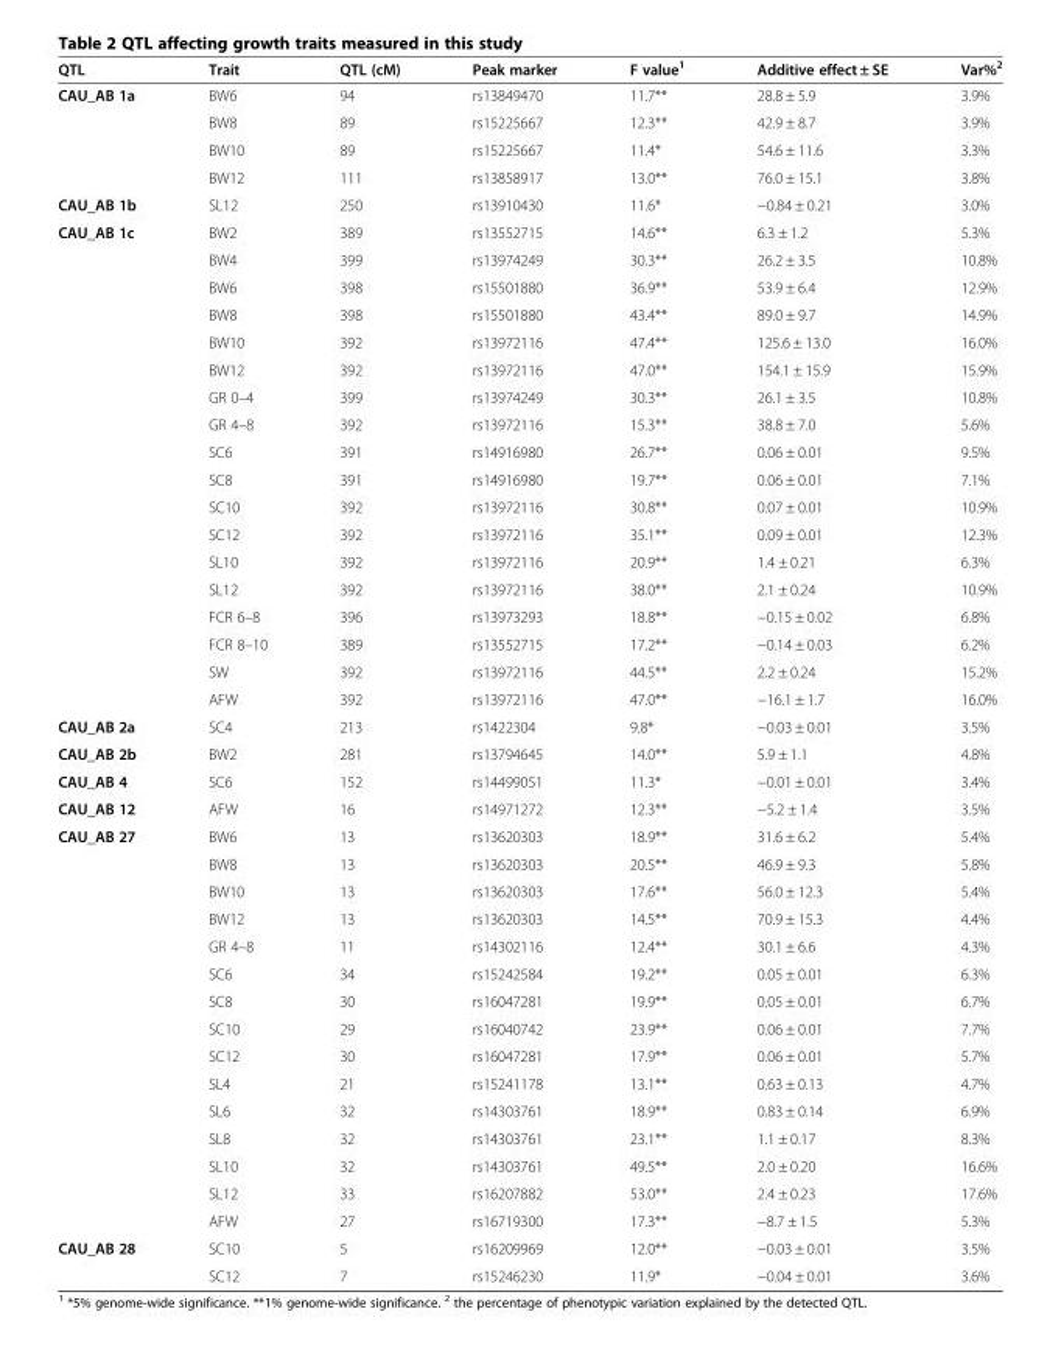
<table><thead><tr><td>QTL</td><td>Trait</td><td>QTL (cM)</td><td>Peak marker</td><td>F value<sup>1</sup></td><td>Additive effect ± SE</td><td>Var%<sup>2</sup></td></tr></thead><tbody><tr><td rowspan="4">CAU_AB 1a</td><td>BW6</td><td>94</td><td>rs13849470</td><td>11.7**</td><td>28.8 ± 5.9</td><td>3.9%</td></tr><tr><td>BW8</td><td>89</td><td>rs15225667</td><td>12.3**</td><td>42.9 ± 8.7</td><td>3.9%</td></tr><tr><td>BW10</td><td>89</td><td>rs15225667</td><td>11.4*</td><td>54.6 ± 11.6</td><td>3.3%</td></tr><tr><td>BW12</td><td>111</td><td>rs13858917</td><td>13.0**</td><td>76.0 ± 15.1</td><td>3.8%</td></tr><tr><td>CAU_AB 1b</td><td>SL12</td><td>250</td><td>rs13910430</td><td>11.6*</td><td>−0.84 ± 0.21</td><td>3.0%</td></tr><tr><td rowspan="18">CAU_AB 1c</td><td>BW2</td><td>389</td><td>rs13552715</td><td>14.6**</td><td>6.3 ± 1.2</td><td>5.3%</td></tr><tr><td>BW4</td><td>399</td><td>rs13974249</td><td>30.3**</td><td>26.2 ± 3.5</td><td>10.8%</td></tr><tr><td>BW6</td><td>398</td><td>rs15501880</td><td>36.9**</td><td>53.9 ± 6.4</td><td>12.9%</td></tr><tr><td>BW8</td><td>398</td><td>rs15501880</td><td>43.4**</td><td>89.0 ± 9.7</td><td>14.9%</td></tr><tr><td>BW10</td><td>392</td><td>rs13972116</td><td>47.4**</td><td>125.6 ± 13.0</td><td>16.0%</td></tr><tr><td>BW12</td><td>392</td><td>rs13972116</td><td>47.0**</td><td>154.1 ± 15.9</td><td>15.9%</td></tr><tr><td>GR 0–4</td><td>399</td><td>rs13974249</td><td>30.3**</td><td>26.1 ± 3.5</td><td>10.8%</td></tr><tr><td>GR 4–8</td><td>392</td><td>rs13972116</td><td>15.3**</td><td>38.8 ± 7.0</td><td>5.6%</td></tr><tr><td>SC6</td><td>391</td><td>rs14916980</td><td>26.7**</td><td>0.06 ± 0.01</td><td>9.5%</td></tr><tr><td>SC8</td><td>391</td><td>rs14916980</td><td>19.7**</td><td>0.06 ± 0.01</td><td>7.1%</td></tr><tr><td>SC10</td><td>392</td><td>rs13972116</td><td>30.8**</td><td>0.07 ± 0.01</td><td>10.9%</td></tr><tr><td>SC12</td><td>392</td><td>rs13972116</td><td>35.1**</td><td>0.09 ± 0.01</td><td>12.3%</td></tr><tr><td>SL10</td><td>392</td><td>rs13972116</td><td>20.9**</td><td>1.4 ± 0.21</td><td>6.3%</td></tr><tr><td>SL12</td><td>392</td><td>rs13972116</td><td>38.0**</td><td>2.1 ± 0.24</td><td>10.9%</td></tr><tr><td>FCR 6–8</td><td>396</td><td>rs13973293</td><td>18.8**</td><td>−0.15 ± 0.02</td><td>6.8%</td></tr><tr><td>FCR 8–10</td><td>389</td><td>rs13552715</td><td>17.2**</td><td>−0.14 ± 0.03</td><td>6.2%</td></tr><tr><td>SW</td><td>392</td><td>rs13972116</td><td>44.5**</td><td>2.2 ± 0.24</td><td>15.2%</td></tr><tr><td>AFW</td><td>392</td><td>rs13972116</td><td>47.0**</td><td>−16.1 ± 1.7</td><td>16.0%</td></tr><tr><td>CAU_AB 2a</td><td>SC4</td><td>213</td><td>rs1422304</td><td>9.8*</td><td>−0.03 ± 0.01</td><td>3.5%</td></tr><tr><td>CAU_AB 2b</td><td>BW2</td><td>281</td><td>rs13794645</td><td>14.0**</td><td>5.9 ± 1.1</td><td>4.8%</td></tr><tr><td>CAU_AB 4</td><td>SC6</td><td>152</td><td>rs14499051</td><td>11.3*</td><td>−0.01 ± 0.01</td><td>3.4%</td></tr><tr><td>CAU_AB 12</td><td>AFW</td><td>16</td><td>rs14971272</td><td>12.3**</td><td>−5.2 ± 1.4</td><td>3.5%</td></tr><tr><td rowspan="15">CAU_AB 27</td><td>BW6</td><td>13</td><td>rs13620303</td><td>18.9**</td><td>31.6 ± 6.2</td><td>5.4%</td></tr><tr><td>BW8</td><td>13</td><td>rs13620303</td><td>20.5**</td><td>46.9 ± 9.3</td><td>5.8%</td></tr><tr><td>BW10</td><td>13</td><td>rs13620303</td><td>17.6**</td><td>56.0 ± 12.3</td><td>5.4%</td></tr><tr><td>BW12</td><td>13</td><td>rs13620303</td><td>14.5**</td><td>70.9 ± 15.3</td><td>4.4%</td></tr><tr><td>GR 4–8</td><td>11</td><td>rs14302116</td><td>12.4**</td><td>30.1 ± 6.6</td><td>4.3%</td></tr><tr><td>SC6</td><td>34</td><td>rs15242584</td><td>19.2**</td><td>0.05 ± 0.01</td><td>6.3%</td></tr><tr><td>SC8</td><td>30</td><td>rs16047281</td><td>19.9**</td><td>0.05 ± 0.01</td><td>6.7%</td></tr><tr><td>SC10</td><td>29</td><td>rs16040742</td><td>23.9**</td><td>0.06 ± 0.01</td><td>7.7%</td></tr><tr><td>SC12</td><td>30</td><td>rs16047281</td><td>17.9**</td><td>0.06 ± 0.01</td><td>5.7%</td></tr><tr><td>SL4</td><td>21</td><td>rs15241178</td><td>13.1**</td><td>0.63 ± 0.13</td><td>4.7%</td></tr><tr><td>SL6</td><td>32</td><td>rs14303761</td><td>18.9**</td><td>0.83 ± 0.14</td><td>6.9%</td></tr><tr><td>SL8</td><td>32</td><td>rs14303761</td><td>23.1**</td><td>1.1 ± 0.17</td><td>8.3%</td></tr><tr><td>SL10</td><td>32</td><td>rs14303761</td><td>49.5**</td><td>2.0 ± 0.20</td><td>16.6%</td></tr><tr><td>SL12</td><td>33</td><td>rs16207882</td><td>53.0**</td><td>2.4 ± 0.23</td><td>17.6%</td></tr><tr><td>AFW</td><td>27</td><td>rs16719300</td><td>17.3**</td><td>−8.7 ± 1.5</td><td>5.3%</td></tr><tr><td rowspan="2">CAU_AB 28</td><td>SC10</td><td>5</td><td>rs16209969</td><td>12.0**</td><td>−0.03 ± 0.01</td><td>3.5%</td></tr><tr><td>SC12</td><td>7</td><td>rs15246230</td><td>11.9*</td><td>−0.04 ± 0.01</td><td>3.6%</td></tr></tbody></table>